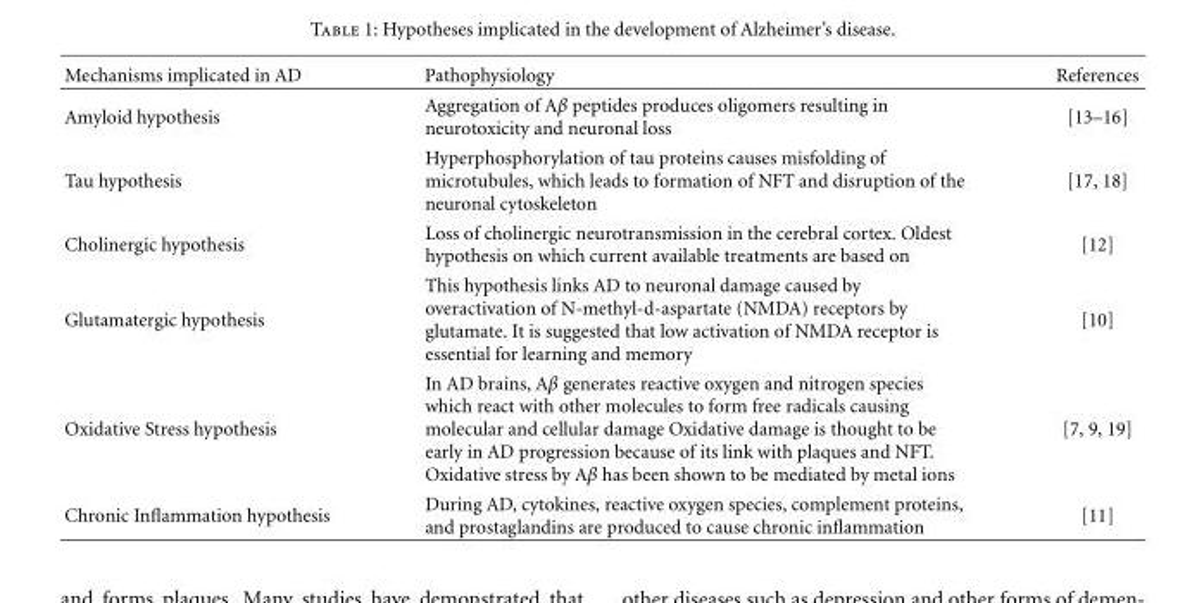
<table><thead><tr><td>Mechanisms implicated in AD</td><td>Pathophysiology</td><td>References</td></tr></thead><tbody><tr><td>Amyloid hypothesis</td><td>Aggregation of Aβ peptides produces oligomers resulting in neurotoxicity and neuronal loss</td><td>[13–16]</td></tr><tr><td>Tau hypothesis</td><td>Hyperphosphorylation of tau proteins causes misfolding of microtubules, which leads to formation of NFT and disruption of the neuronal cytoskeleton</td><td>[17, 18]</td></tr><tr><td>Cholinergic hypothesis</td><td>Loss of cholinergic neurotransmission in the cerebral cortex. Oldest hypothesis on which current available treatments are based on</td><td>[12]</td></tr><tr><td>Glutamatergic hypothesis</td><td>This hypothesis links AD to neuronal damage caused by overactivation of N-methyl-d-aspartate (NMDA) receptors by glutamate. It is suggested that low activation of NMDA receptor is essential for learning and memory</td><td>[10]</td></tr><tr><td>Oxidative Stress hypothesis</td><td>In AD brains, Aβ generates reactive oxygen and nitrogen species which react with other molecules to form free radicals causing molecular and cellular damage Oxidative damage is thought to be early in AD progression because of its link with plaques and NFT. Oxidative stress by Aβ has been shown to be mediated by metal ions</td><td>[7, 9, 19]</td></tr><tr><td>Chronic Inflammation hypothesis</td><td>During AD, cytokines, reactive oxygen species, complement proteins, and prostaglandins are produced to cause chronic inflammation</td><td>[11]</td></tr></tbody></table>